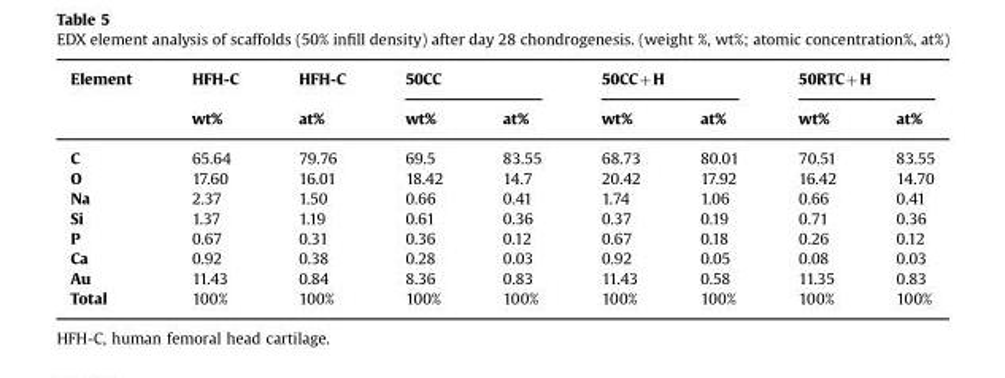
<table><thead><tr><td rowspan="2">Element</td><td rowspan="2">HFH-C wt%</td><td rowspan="2">HFH-C at%</td><td colspan="2">50CC</td><td colspan="2">50CC+H</td><td colspan="2">50RTC+H</td></tr><tr><td>wt%</td><td>at%</td><td>wt%</td><td>at%</td><td>wt%</td><td>at%</td></tr></thead><tbody><tr><td>C</td><td>65.64</td><td>79.76</td><td>69.5</td><td>83.55</td><td>68.73</td><td>80.01</td><td>70.51</td><td>83.55</td></tr><tr><td>O</td><td>17.60</td><td>16.01</td><td>18.42</td><td>14.7</td><td>20.42</td><td>17.92</td><td>16.42</td><td>14.70</td></tr><tr><td>Na</td><td>2.37</td><td>1.50</td><td>0.66</td><td>0.41</td><td>1.74</td><td>1.06</td><td>0.66</td><td>0.41</td></tr><tr><td>Si</td><td>1.37</td><td>1.19</td><td>0.61</td><td>0.36</td><td>0.37</td><td>0.19</td><td>0.71</td><td>0.36</td></tr><tr><td>P</td><td>0.67</td><td>0.31</td><td>0.36</td><td>0.12</td><td>0.67</td><td>0.18</td><td>0.26</td><td>0.12</td></tr><tr><td>Ca</td><td>0.92</td><td>0.38</td><td>0.28</td><td>0.03</td><td>0.92</td><td>0.05</td><td>0.08</td><td>0.03</td></tr><tr><td>Au</td><td>11.43</td><td>0.84</td><td>8.36</td><td>0.83</td><td>11.43</td><td>0.58</td><td>11.35</td><td>0.83</td></tr><tr><td>Total</td><td>100%</td><td>100%</td><td>100%</td><td>100%</td><td>100%</td><td>100%</td><td>100%</td><td>100%</td></tr></tbody></table>